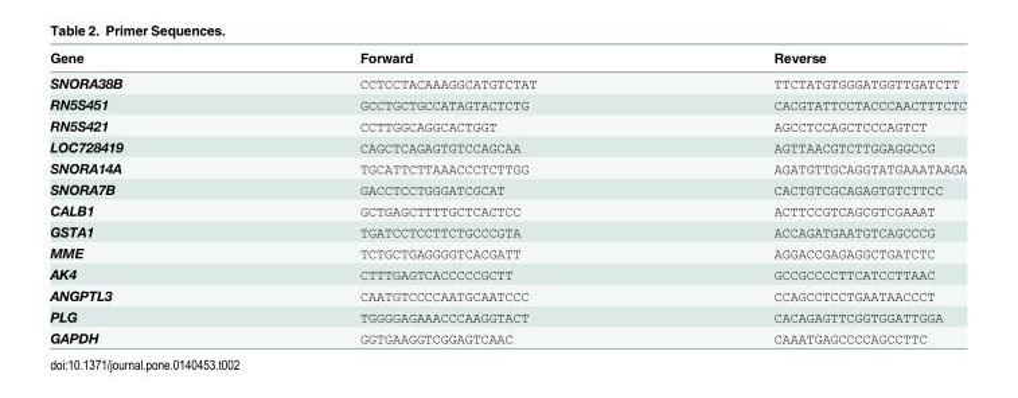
<table><thead><tr><td>Gene</td><td>Forward</td><td>Reverse</td></tr></thead><tbody><tr><td>SNORA38B</td><td>CCTCCTACAAAGGCATGTCTAT</td><td>TTCTATGTGGGATGGTTGATCTT</td></tr><tr><td>RN5S451</td><td>GCCTGCTGCCATAGTACTCTG</td><td>CACGTATTCCTACCCAACTTTCTC</td></tr><tr><td>RN5S421</td><td>CCTTGGCAGGCACTGGT</td><td>AGCCTCCAGCTCCCAGTCT</td></tr><tr><td>LOC728419</td><td>CAGCTCAGAGTGTCCAGCAA</td><td>AGTTAACGTCTTGGAGGCCG</td></tr><tr><td>SNORA14A</td><td>TGCATTCTTAAACCCTCTTGG</td><td>AGATGTTGCAGGTATGAAATAAGA</td></tr><tr><td>SNORA7B</td><td>GACCTCCTGGGATCGCAT</td><td>CACTGTCGCAGAGTGTCTTCC</td></tr><tr><td>CALB1</td><td>GCTGAGCTTTTGCTCACTCC</td><td>ACTTCCGTCAGCGTCGAAAT</td></tr><tr><td>GSTA1</td><td>TGATCCTCCTTCTGCCCGTA</td><td>ACCAGATGAATGTCAGCCCG</td></tr><tr><td>MME</td><td>TCTGCTGAGGGGTCACGATT</td><td>AGGACCGAGAGGCTGATCTC</td></tr><tr><td>AK4</td><td>CTTTGAGTCACCCCCGCTT</td><td>GCCGCCCCTTCATCCTTAAC</td></tr><tr><td>ANGPTL3</td><td>CAATGTCCCCAATGCAATCCC</td><td>CCAGCCTCCTGAATAACCCT</td></tr><tr><td>PLG</td><td>TGGGGAGAAACCCAAGGTACT</td><td>CACAGAGTTCGGTGGATTGGA</td></tr><tr><td>GAPDH</td><td>GGTGAAGGTCGGAGTCAAC</td><td>CAAATGAGCCCCAGCCTTC</td></tr></tbody></table>